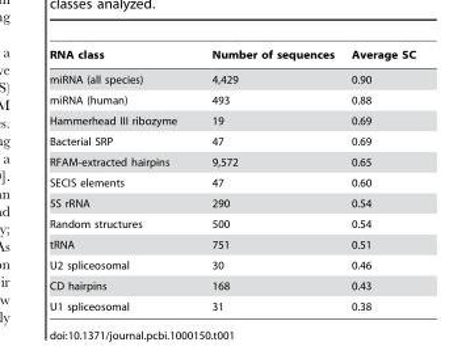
<table><thead><tr><td>RNA class</td><td>Number of sequences</td><td>Average SC</td></tr></thead><tbody><tr><td>miRNA (all species)</td><td>4,429</td><td>0.90</td></tr><tr><td>miRNA (human)</td><td>493</td><td>0.88</td></tr><tr><td>Hammerhead III ribozyme</td><td>19</td><td>0.69</td></tr><tr><td>Bacterial SRP</td><td>47</td><td>0.69</td></tr><tr><td>RFAM-extracted hairpins</td><td>9,572</td><td>0.65</td></tr><tr><td>SECIS elements</td><td>47</td><td>0.60</td></tr><tr><td>5S rRNA</td><td>290</td><td>0.54</td></tr><tr><td>Random structures</td><td>500</td><td>0.54</td></tr><tr><td>tRNA</td><td>751</td><td>0.51</td></tr><tr><td>U2 spliceosomal</td><td>30</td><td>0.46</td></tr><tr><td>CD hairpins</td><td>168</td><td>0.43</td></tr><tr><td>U1 spliceosomal</td><td>31</td><td>0.38</td></tr></tbody></table>